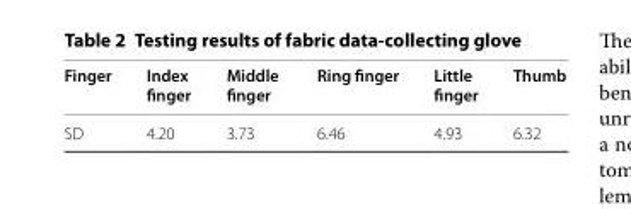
<table><thead><tr><td>Finger</td><td>Index finger</td><td>Middle finger</td><td>Ring finger</td><td>Little finger</td><td>Thumb</td></tr></thead><tbody><tr><td>SD</td><td>4.20</td><td>3.73</td><td>6.46</td><td>4.93</td><td>6.32</td></tr></tbody></table>